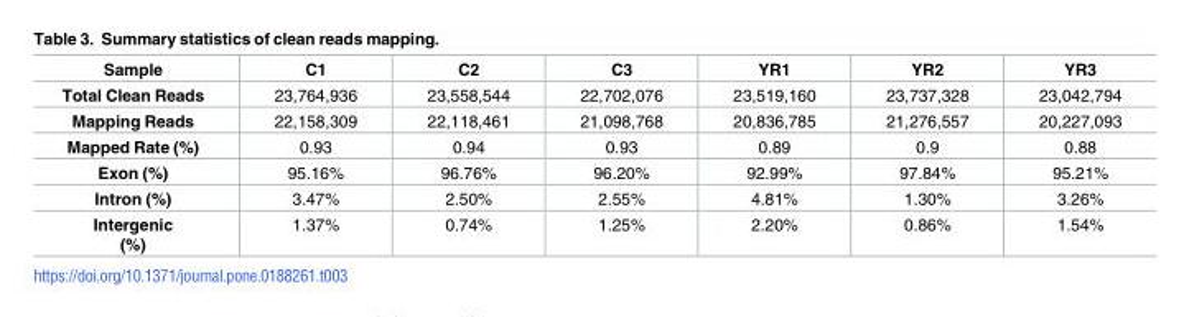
<table><thead><tr><td>Sample</td><td>C1</td><td>C2</td><td>C3</td><td>YR1</td><td>YR2</td><td>YR3</td></tr></thead><tbody><tr><td>Total Clean Reads</td><td>23,764,936</td><td>23,558,544</td><td>22,702,076</td><td>23,519,160</td><td>23,737,328</td><td>23,042,794</td></tr><tr><td>Mapping Reads</td><td>22,158,309</td><td>22,118,461</td><td>21,098,768</td><td>20,836,785</td><td>21,276,557</td><td>20,227,093</td></tr><tr><td>Mapped Rate (%)</td><td>0.93</td><td>0.94</td><td>0.93</td><td>0.89</td><td>0.9</td><td>0.88</td></tr><tr><td>Exon (%)</td><td>95.16%</td><td>96.76%</td><td>96.20%</td><td>92.99%</td><td>97.84%</td><td>95.21%</td></tr><tr><td>Intron (%)</td><td>3.47%</td><td>2.50%</td><td>2.55%</td><td>4.81%</td><td>1.30%</td><td>3.26%</td></tr><tr><td>Intergenic (%)</td><td>1.37%</td><td>0.74%</td><td>1.25%</td><td>2.20%</td><td>0.86%</td><td>1.54%</td></tr></tbody></table>